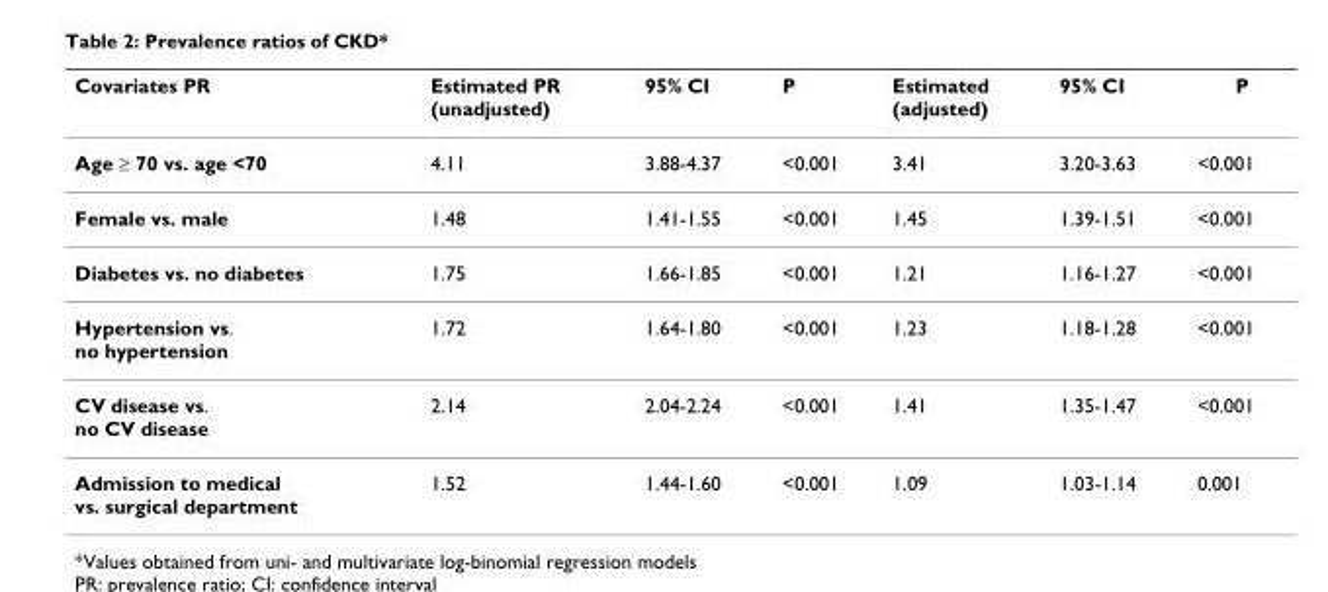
<table><thead><tr><td>Covariates PR</td><td>Estimated PR (unadjusted)</td><td>95% CI</td><td>P</td><td>Estimated (adjusted)</td><td>95% CI</td><td>P</td></tr></thead><tbody><tr><td>Age ≥ 70 vs. age &lt;70</td><td>4.11</td><td>3.88-4.37</td><td>&lt;0.001</td><td>3.41</td><td>3.20-3.63</td><td>&lt;0.001</td></tr><tr><td>Female vs. male</td><td>1.48</td><td>1.41-1.55</td><td>&lt;0.001</td><td>1.45</td><td>1.39-1.51</td><td>&lt;0.001</td></tr><tr><td>Diabetes vs. no diabetes</td><td>1.75</td><td>1.66-1.85</td><td>&lt;0.001</td><td>1.21</td><td>1.16-1.27</td><td>&lt;0.001</td></tr><tr><td>Hypertension vs. no hypertension</td><td>1.72</td><td>1.64-1.80</td><td>&lt;0.001</td><td>1.23</td><td>1.18-1.28</td><td>&lt;0.001</td></tr><tr><td>CV disease vs. no CV disease</td><td>2.14</td><td>2.04-2.24</td><td>&lt;0.001</td><td>1.41</td><td>1.35-1.47</td><td>&lt;0.001</td></tr><tr><td>Admission to medical vs. surgical department</td><td>1.52</td><td>1.44-1.60</td><td>&lt;0.001</td><td>1.09</td><td>1.03-1.14</td><td>0.001</td></tr></tbody></table>